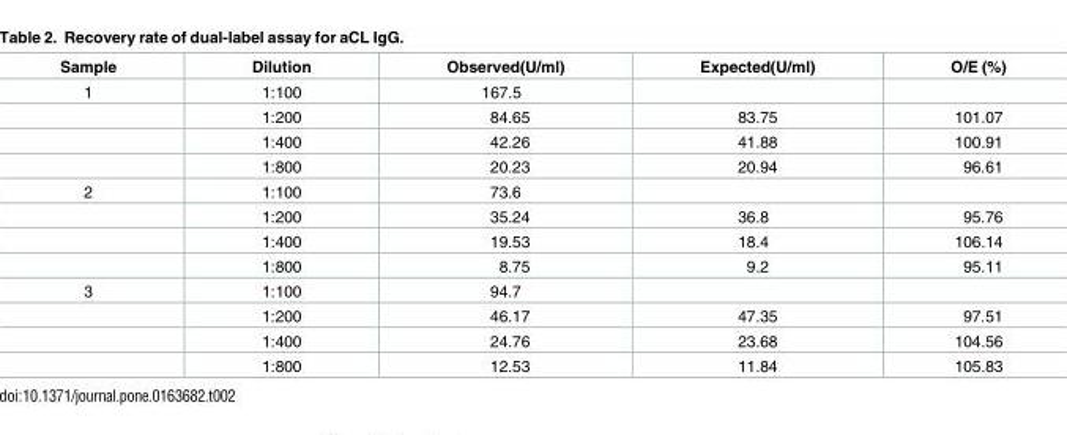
<table><thead><tr><td>Sample</td><td>Dilution</td><td>Observed(U/ml)</td><td>Expected(U/ml)</td><td>O/E (%)</td></tr></thead><tbody><tr><td rowspan="4">1</td><td>1:100</td><td>167.5</td><td></td><td></td></tr><tr><td>1:200</td><td>84.65</td><td>83.75</td><td>101.07</td></tr><tr><td>1:400</td><td>42.26</td><td>41.88</td><td>100.91</td></tr><tr><td>1:800</td><td>20.23</td><td>20.94</td><td>96.61</td></tr><tr><td rowspan="4">2</td><td>1:100</td><td>73.6</td><td></td><td></td></tr><tr><td>1:200</td><td>35.24</td><td>36.8</td><td>95.76</td></tr><tr><td>1:400</td><td>19.53</td><td>18.4</td><td>106.14</td></tr><tr><td>1:800</td><td>8.75</td><td>9.2</td><td>95.11</td></tr><tr><td rowspan="4">3</td><td>1:100</td><td>94.7</td><td></td><td></td></tr><tr><td>1:200</td><td>46.17</td><td>47.35</td><td>97.51</td></tr><tr><td>1:400</td><td>24.76</td><td>23.68</td><td>104.56</td></tr><tr><td>1:800</td><td>12.53</td><td>11.84</td><td>105.83</td></tr></tbody></table>